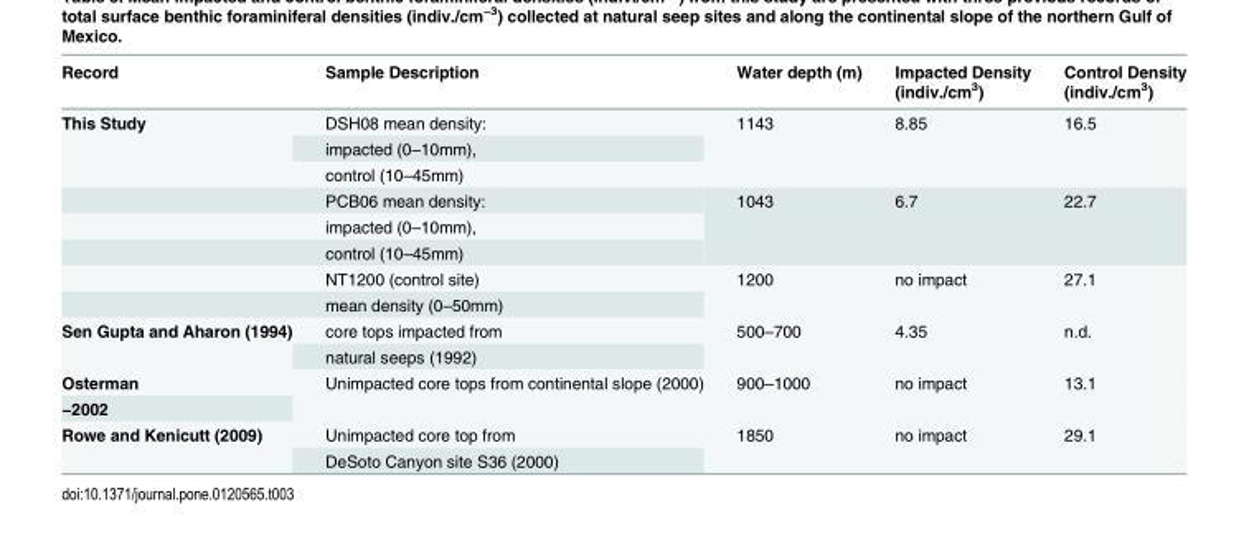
<table><thead><tr><td>Record</td><td>Sample Description</td><td>Water depth (m)</td><td>Impacted Density (indiv./cm<sup>3</sup>)</td><td>Control Density (indiv./cm<sup>3</sup>)</td></tr></thead><tbody><tr><td rowspan="8">This Study</td><td>DSH08 mean density:</td><td rowspan="3">1143</td><td rowspan="3">8.85</td><td rowspan="3">16.5</td></tr><tr><td>impacted (0–10mm),</td></tr><tr><td>control (10–45mm)</td></tr><tr><td>PCB06 mean density:</td><td rowspan="3">1043</td><td rowspan="3">6.7</td><td rowspan="3">22.7</td></tr><tr><td>impacted (0–10mm),</td></tr><tr><td>control (10–45mm)</td></tr><tr><td>NT1200 (control site)</td><td rowspan="2">1200</td><td rowspan="2">no impact</td><td rowspan="2">27.1</td></tr><tr><td>mean density (0–50mm)</td></tr><tr><td rowspan="2">Sen Gupta and Aharon (1994)</td><td>core tops impacted from</td><td rowspan="2">500–700</td><td rowspan="2">4.35</td><td rowspan="2">n.d.</td></tr><tr><td>natural seeps (1992)</td></tr><tr><td>Osterman</td><td rowspan="2">Unimpacted core tops from continental slope (2000)</td><td rowspan="2">900–1000</td><td rowspan="2">no impact</td><td rowspan="2">13.1</td></tr><tr><td>−2002</td></tr><tr><td rowspan="2">Rowe and Kenicutt (2009)</td><td>Unimpacted core top from</td><td rowspan="2">1850</td><td rowspan="2">no impact</td><td rowspan="2">29.1</td></tr><tr><td>DeSoto Canyon site S36 (2000)</td></tr></tbody></table>